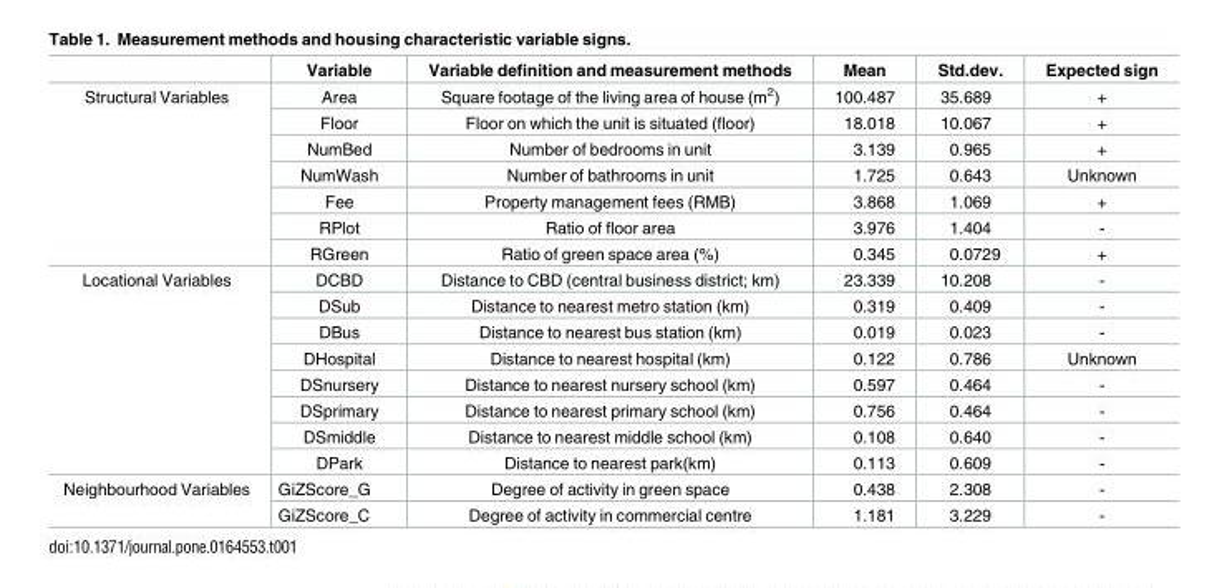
<table><thead><tr><td></td><td>Variable</td><td>Variable definition and measurement methods</td><td>Mean</td><td>Std.dev.</td><td>Expected sign</td></tr></thead><tbody><tr><td rowspan="7">Structural Variables</td><td>Area</td><td>Square footage of the living area of house (m<sup>2</sup>)</td><td>100.487</td><td>35.689</td><td>+</td></tr><tr><td>Floor</td><td>Floor on which the unit is situated (floor)</td><td>18.018</td><td>10.067</td><td>+</td></tr><tr><td>NumBed</td><td>Number of bedrooms in unit</td><td>3.139</td><td>0.965</td><td>+</td></tr><tr><td>NumWash</td><td>Number of bathrooms in unit</td><td>1.725</td><td>0.643</td><td>Unknown</td></tr><tr><td>Fee</td><td>Property management fees (RMB)</td><td>3.868</td><td>1.069</td><td>+</td></tr><tr><td>RPlot</td><td>Ratio of floor area</td><td>3.976</td><td>1.404</td><td>-</td></tr><tr><td>RGreen</td><td>Ratio of green space area (%)</td><td>0.345</td><td>0.0729</td><td>+</td></tr><tr><td rowspan="8">Locational Variables</td><td>DCBD</td><td>Distance to CBD (central business district; km)</td><td>23.339</td><td>10.208</td><td>-</td></tr><tr><td>DSub</td><td>Distance to nearest metro station (km)</td><td>0.319</td><td>0.409</td><td>-</td></tr><tr><td>DBus</td><td>Distance to nearest bus station (km)</td><td>0.019</td><td>0.023</td><td>-</td></tr><tr><td>DHospital</td><td>Distance to nearest hospital (km)</td><td>0.122</td><td>0.786</td><td>Unknown</td></tr><tr><td>DSnursery</td><td>Distance to nearest nursery school (km)</td><td>0.597</td><td>0.464</td><td>-</td></tr><tr><td>DSprimary</td><td>Distance to nearest primary school (km)</td><td>0.756</td><td>0.464</td><td>-</td></tr><tr><td>DSmiddle</td><td>Distance to nearest middle school (km)</td><td>0.108</td><td>0.640</td><td>-</td></tr><tr><td>DPark</td><td>Distance to nearest park(km)</td><td>0.113</td><td>0.609</td><td>-</td></tr><tr><td rowspan="2">Neighbourhood Variables</td><td>GiZScore_G</td><td>Degree of activity in green space</td><td>0.438</td><td>2.308</td><td>-</td></tr><tr><td>GiZScore_C</td><td>Degree of activity in commercial centre</td><td>1.181</td><td>3.229</td><td>-</td></tr></tbody></table>